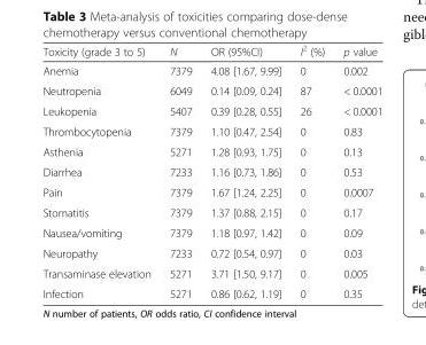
<table><thead><tr><td>Toxicity (grade 3 to 5)</td><td>N</td><td>OR (95%CI)</td><td>I<sup>2</sup> (%)</td><td>p value</td></tr></thead><tbody><tr><td>Anemia</td><td>7379</td><td>4.08 [1.67, 9.99]</td><td>0</td><td>0.002</td></tr><tr><td>Neutropenia</td><td>6049</td><td>0.14 [0.09, 0.24]</td><td>87</td><td>&lt; 0.0001</td></tr><tr><td>Leukopenia</td><td>5407</td><td>0.39 [0.28, 0.55]</td><td>26</td><td>&lt; 0.0001</td></tr><tr><td>Thrombocytopenia</td><td>7379</td><td>1.10 [0.47, 2.54]</td><td>0</td><td>0.83</td></tr><tr><td>Asthenia</td><td>5271</td><td>1.28 [0.93, 1.75]</td><td>0</td><td>0.13</td></tr><tr><td>Diarrhea</td><td>7233</td><td>1.16 [0.73, 1.86]</td><td>0</td><td>0.53</td></tr><tr><td>Pain</td><td>7379</td><td>1.67 [1.24, 2.25]</td><td>0</td><td>0.0007</td></tr><tr><td>Stomatitis</td><td>7379</td><td>1.37 [0.88, 2.15]</td><td>0</td><td>0.17</td></tr><tr><td>Nausea/vomiting</td><td>7379</td><td>1.18 [0.97, 1.42]</td><td>0</td><td>0.09</td></tr><tr><td>Neuropathy</td><td>7233</td><td>0.72 [0.54, 0.97]</td><td>0</td><td>0.03</td></tr><tr><td>Transaminase elevation</td><td>5271</td><td>3.71 [1.50, 9.17]</td><td>0</td><td>0.005</td></tr><tr><td>Infection</td><td>5271</td><td>0.86 [0.62, 1.19]</td><td>0</td><td>0.35</td></tr></tbody></table>